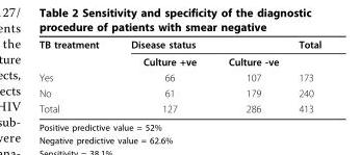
<table><tbody><tr><td rowspan="2">TB treatment</td><td colspan="2">Disease status</td><td>Total</td></tr><tr><td>Culture +ve</td><td>Culture -ve</td><td></td></tr><tr><td>Yes</td><td>66</td><td>107</td><td>173</td></tr><tr><td>No</td><td>61</td><td>179</td><td>240</td></tr><tr><td>Total</td><td>127</td><td>286</td><td>413</td></tr></tbody></table>